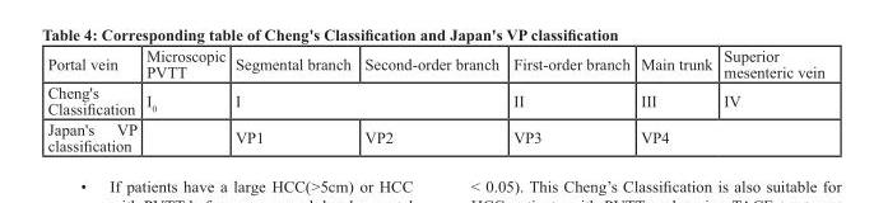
<table><thead><tr><td>Portal vein</td><td>Microscopic PVTT</td><td>Segmental branch</td><td>Second-order branch</td><td>First-order branch</td><td>Main trunk</td><td>Superior mesenteric vein</td></tr></thead><tbody><tr><td>Cheng&#x27;s Classification</td><td>I<sub>0</sub></td><td colspan="2">I</td><td>II</td><td>III</td><td>IV</td></tr><tr><td>Japan&#x27;s VP classification</td><td></td><td>VP1</td><td>VP2</td><td>VP3</td><td colspan="2">VP4</td></tr></tbody></table>